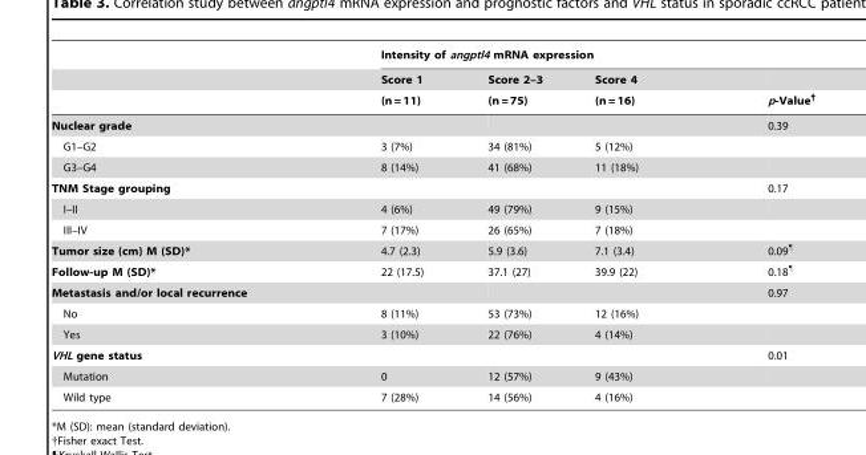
<table><thead><tr><td rowspan="3"></td><td colspan="4">Intensity of angptl4 mRNA expression</td></tr><tr><td rowspan="2">Score 1 (n = 11)</td><td rowspan="2">Score 2–3 (n = 75)</td><td rowspan="2">Score 4 (n = 16)</td><td rowspan="2">p-Value†</td></tr><tr></tr></thead><tbody><tr><td>Nuclear grade</td><td></td><td></td><td></td><td>0.39</td></tr><tr><td>G1–G2</td><td>3 (7%)</td><td>34 (81%)</td><td>5 (12%)</td><td></td></tr><tr><td>G3–G4</td><td>8 (14%)</td><td>41 (68%)</td><td>11 (18%)</td><td></td></tr><tr><td>TNM Stage grouping</td><td></td><td></td><td></td><td>0.17</td></tr><tr><td>I–II</td><td>4 (6%)</td><td>49 (79%)</td><td>9 (15%)</td><td></td></tr><tr><td>III–IV</td><td>7 (17%)</td><td>26 (65%)</td><td>7 (18%)</td><td></td></tr><tr><td>Tumor size (cm) M (SD)*</td><td>4.7 (2.3)</td><td>5.9 (3.6)</td><td>7.1 (3.4)</td><td>0.09¶</td></tr><tr><td>Follow-up M (SD)*</td><td>22 (17.5)</td><td>37.1 (27)</td><td>39.9 (22)</td><td>0.18¶</td></tr><tr><td>Metastasis and/or local recurrence</td><td></td><td></td><td></td><td>0.97</td></tr><tr><td>No</td><td>8 (11%)</td><td>53 (73%)</td><td>12 (16%)</td><td></td></tr><tr><td>Yes</td><td>3 (10%)</td><td>22 (76%)</td><td>4 (14%)</td><td></td></tr><tr><td>VHL gene status</td><td></td><td></td><td></td><td>0.01</td></tr><tr><td>Mutation</td><td>0</td><td>12 (57%)</td><td>9 (43%)</td><td></td></tr><tr><td>Wild type</td><td>7 (28%)</td><td>14 (56%)</td><td>4 (16%)</td><td></td></tr></tbody></table>